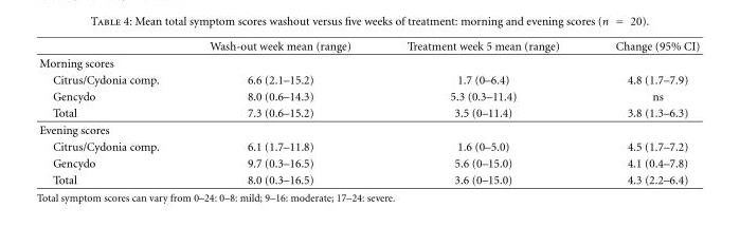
<table><thead><tr><td></td><td>Wash-out week mean (range)</td><td>Treatment week 5 mean (range)</td><td>Change (95% CI)</td></tr></thead><tbody><tr><td colspan="4">Morning scores</td></tr><tr><td>Citrus/Cydonia comp.</td><td>6.6 (2.1–15.2)</td><td>1.7 (0–6.4)</td><td>4.8 (1.7–7.9)</td></tr><tr><td>Gencydo</td><td>8.0 (0.6–14.3)</td><td>5.3 (0.3–11.4)</td><td>ns</td></tr><tr><td>Total</td><td>7.3 (0.6–15.2)</td><td>3.5 (0–11.4)</td><td>3.8 (1.3–6.3)</td></tr><tr><td colspan="4">Evening scores</td></tr><tr><td>Citrus/Cydonia comp.</td><td>6.1 (1.7–11.8)</td><td>1.6 (0–5.0)</td><td>4.5 (1.7–7.2)</td></tr><tr><td>Gencydo</td><td>9.7 (0.3–16.5)</td><td>5.6 (0–15.0)</td><td>4.1 (0.4–7.8)</td></tr><tr><td>Total</td><td>8.0 (0.3–16.5)</td><td>3.6 (0–15.0)</td><td>4.3 (2.2–6.4)</td></tr></tbody></table>